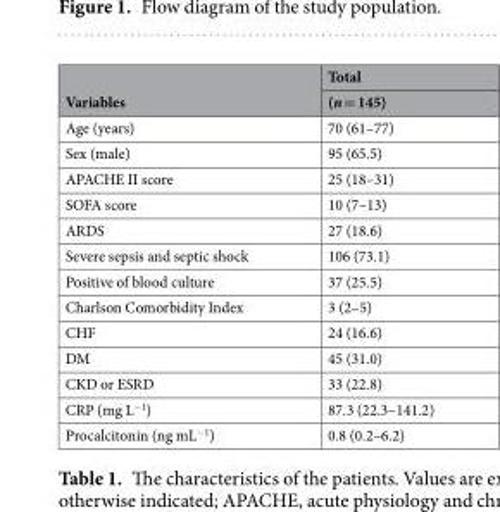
<table><thead><tr><td rowspan="2">Variables</td><td rowspan="2">Total (n = 145)</td></tr><tr></tr></thead><tbody><tr><td>Age (years)</td><td>70 (61–77)</td></tr><tr><td>Sex (male)</td><td>95 (65.5)</td></tr><tr><td>APACHE II score</td><td>25 (18–31)</td></tr><tr><td>SOFA score</td><td>10 (7–13)</td></tr><tr><td>ARDS</td><td>27 (18.6)</td></tr><tr><td>Severe sepsis and septic shock</td><td>106 (73.1)</td></tr><tr><td>Positive of blood culture</td><td>37 (25.5)</td></tr><tr><td>Charlson Comorbidity Index</td><td>3 (2–5)</td></tr><tr><td>CHF</td><td>24 (16.6)</td></tr><tr><td>DM</td><td>45 (31.0)</td></tr><tr><td>CKD or ESRD</td><td>33 (22.8)</td></tr><tr><td>CRP (mg L<sup>−1</sup>)</td><td>87.3 (22.3–141.2)</td></tr><tr><td>Procalcitonin (ng mL<sup>−1</sup>)</td><td>0.8 (0.2–6.2)</td></tr></tbody></table>